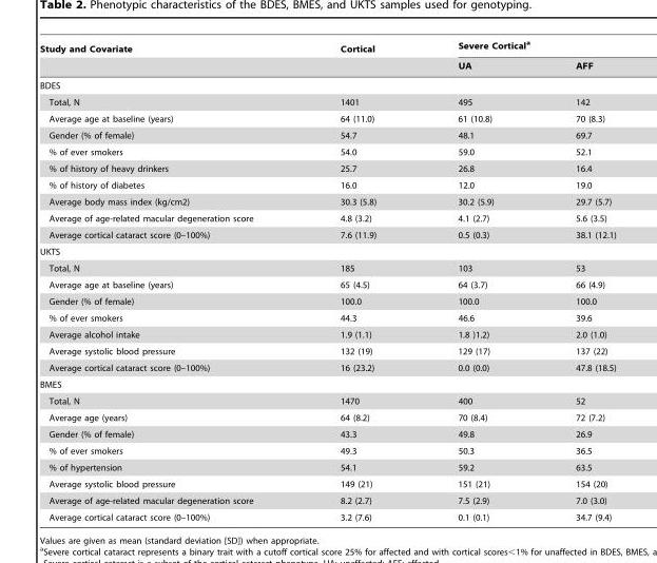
<table><thead><tr><td rowspan="2">Study and Covariate</td><td rowspan="2">Cortical</td><td colspan="2">Severe Cortical<sup>a</sup></td></tr><tr><td>UA</td><td>AFF</td></tr></thead><tbody><tr><td colspan="4">BDES</td></tr><tr><td>Total, N</td><td>1401</td><td>495</td><td>142</td></tr><tr><td>Average age at baseline (years)</td><td>64 (11.0)</td><td>61 (10.8)</td><td>70 (8.3)</td></tr><tr><td>Gender (% of female)</td><td>54.7</td><td>48.1</td><td>69.7</td></tr><tr><td>% of ever smokers</td><td>54.0</td><td>59.0</td><td>52.1</td></tr><tr><td>% of history of heavy drinkers</td><td>25.7</td><td>26.8</td><td>16.4</td></tr><tr><td>% of history of diabetes</td><td>16.0</td><td>12.0</td><td>19.0</td></tr><tr><td>Average body mass index (kg/cm2)</td><td>30.3 (5.8)</td><td>30.2 (5.9)</td><td>29.7 (5.7)</td></tr><tr><td>Average of age-related macular degeneration score</td><td>4.8 (3.2)</td><td>4.1 (2.7)</td><td>5.6 (3.5)</td></tr><tr><td>Average cortical cataract score (0–100%)</td><td>7.6 (11.9)</td><td>0.5 (0.3)</td><td>38.1 (12.1)</td></tr><tr><td colspan="4">UKTS</td></tr><tr><td>Total, N</td><td>185</td><td>103</td><td>53</td></tr><tr><td>Average age at baseline (years)</td><td>65 (4.5)</td><td>64 (3.7)</td><td>66 (4.9)</td></tr><tr><td>Gender (% of female)</td><td>100.0</td><td>100.0</td><td>100.0</td></tr><tr><td>% of ever smokers</td><td>44.3</td><td>46.6</td><td>39.6</td></tr><tr><td>Average alcohol intake</td><td>1.9 (1.1)</td><td>1.8 )1.2)</td><td>2.0 (1.0)</td></tr><tr><td>Average systolic blood pressure</td><td>132 (19)</td><td>129 (17)</td><td>137 (22)</td></tr><tr><td>Average cortical cataract score (0–100%)</td><td>16 (23.2)</td><td>0.0 (0.0)</td><td>47.8 (18.5)</td></tr><tr><td colspan="4">BMES</td></tr><tr><td>Total, N</td><td>1470</td><td>400</td><td>52</td></tr><tr><td>Average age (years)</td><td>64 (8.2)</td><td>70 (8.4)</td><td>72 (7.2)</td></tr><tr><td>Gender (% of female)</td><td>43.3</td><td>49.8</td><td>26.9</td></tr><tr><td>% of ever smokers</td><td>49.3</td><td>50.3</td><td>36.5</td></tr><tr><td>% of hypertension</td><td>54.1</td><td>59.2</td><td>63.5</td></tr><tr><td>Average systolic blood pressure</td><td>149 (21)</td><td>151 (21)</td><td>154 (20)</td></tr><tr><td>Average of age-related macular degeneration score</td><td>8.2 (2.7)</td><td>7.5 (2.9)</td><td>7.0 (3.0)</td></tr><tr><td>Average cortical cataract score (0–100%)</td><td>3.2 (7.6)</td><td>0.1 (0.1)</td><td>34.7 (9.4)</td></tr></tbody></table>